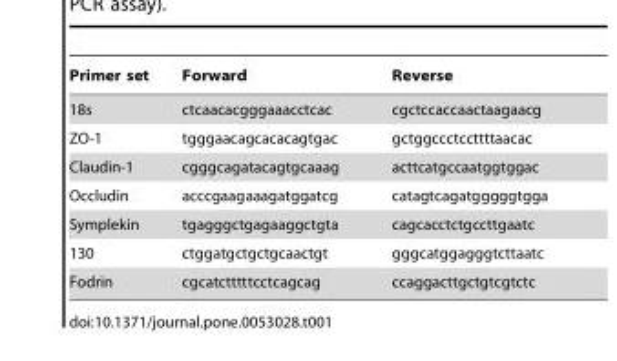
<table><thead><tr><td>Primer set</td><td>Forward</td><td>Reverse</td></tr></thead><tbody><tr><td>18s</td><td>ctcaacacgggaaacctcac</td><td>cgctccaccaactaagaacg</td></tr><tr><td>ZO-1</td><td>tgggaacagcacacagtgac</td><td>gctggccctccttttaacac</td></tr><tr><td>Claudin-1</td><td>cgggcagatacagtgcaaag</td><td>acttcatgccaatggtggac</td></tr><tr><td>Occludin</td><td>acccgaagaaagatggatcg</td><td>catagtcagatgggggtgga</td></tr><tr><td>Symplekin</td><td>tgagggctgagaaggctgta</td><td>cagcacctctgccttgaatc</td></tr><tr><td>130</td><td>ctggatgctgctgcaactgt</td><td>gggcatggagggtcttaatc</td></tr><tr><td>Fodrin</td><td>cgcatctttttcctcagcag</td><td>ccaggacttgctgtcgtctc</td></tr></tbody></table>